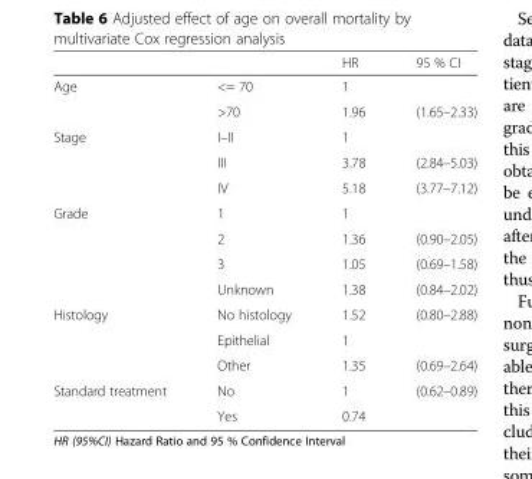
<table><thead><tr><td></td><td></td><td>HR</td><td>95 % CI</td></tr></thead><tbody><tr><td rowspan="2">Age</td><td>&lt;= 70</td><td>1</td><td></td></tr><tr><td>&gt;70</td><td>1.96</td><td>(1.65–2.33)</td></tr><tr><td rowspan="3">Stage</td><td>I–II</td><td>1</td><td></td></tr><tr><td>III</td><td>3.78</td><td>(2.84–5.03)</td></tr><tr><td>IV</td><td>5.18</td><td>(3.77–7.12)</td></tr><tr><td rowspan="4">Grade</td><td>1</td><td>1</td><td></td></tr><tr><td>2</td><td>1.36</td><td>(0.90–2.05)</td></tr><tr><td>3</td><td>1.05</td><td>(0.69–1.58)</td></tr><tr><td>Unknown</td><td>1.38</td><td>(0.84–2.02)</td></tr><tr><td rowspan="3">Histology</td><td>No histology</td><td>1.52</td><td>(0.80–2.88)</td></tr><tr><td>Epithelial</td><td>1</td><td></td></tr><tr><td>Other</td><td>1.35</td><td>(0.69–2.64)</td></tr><tr><td rowspan="2">Standard treatment</td><td>No</td><td>1</td><td rowspan="2">(0.62–0.89)</td></tr><tr><td>Yes</td><td>0.74</td></tr></tbody></table>